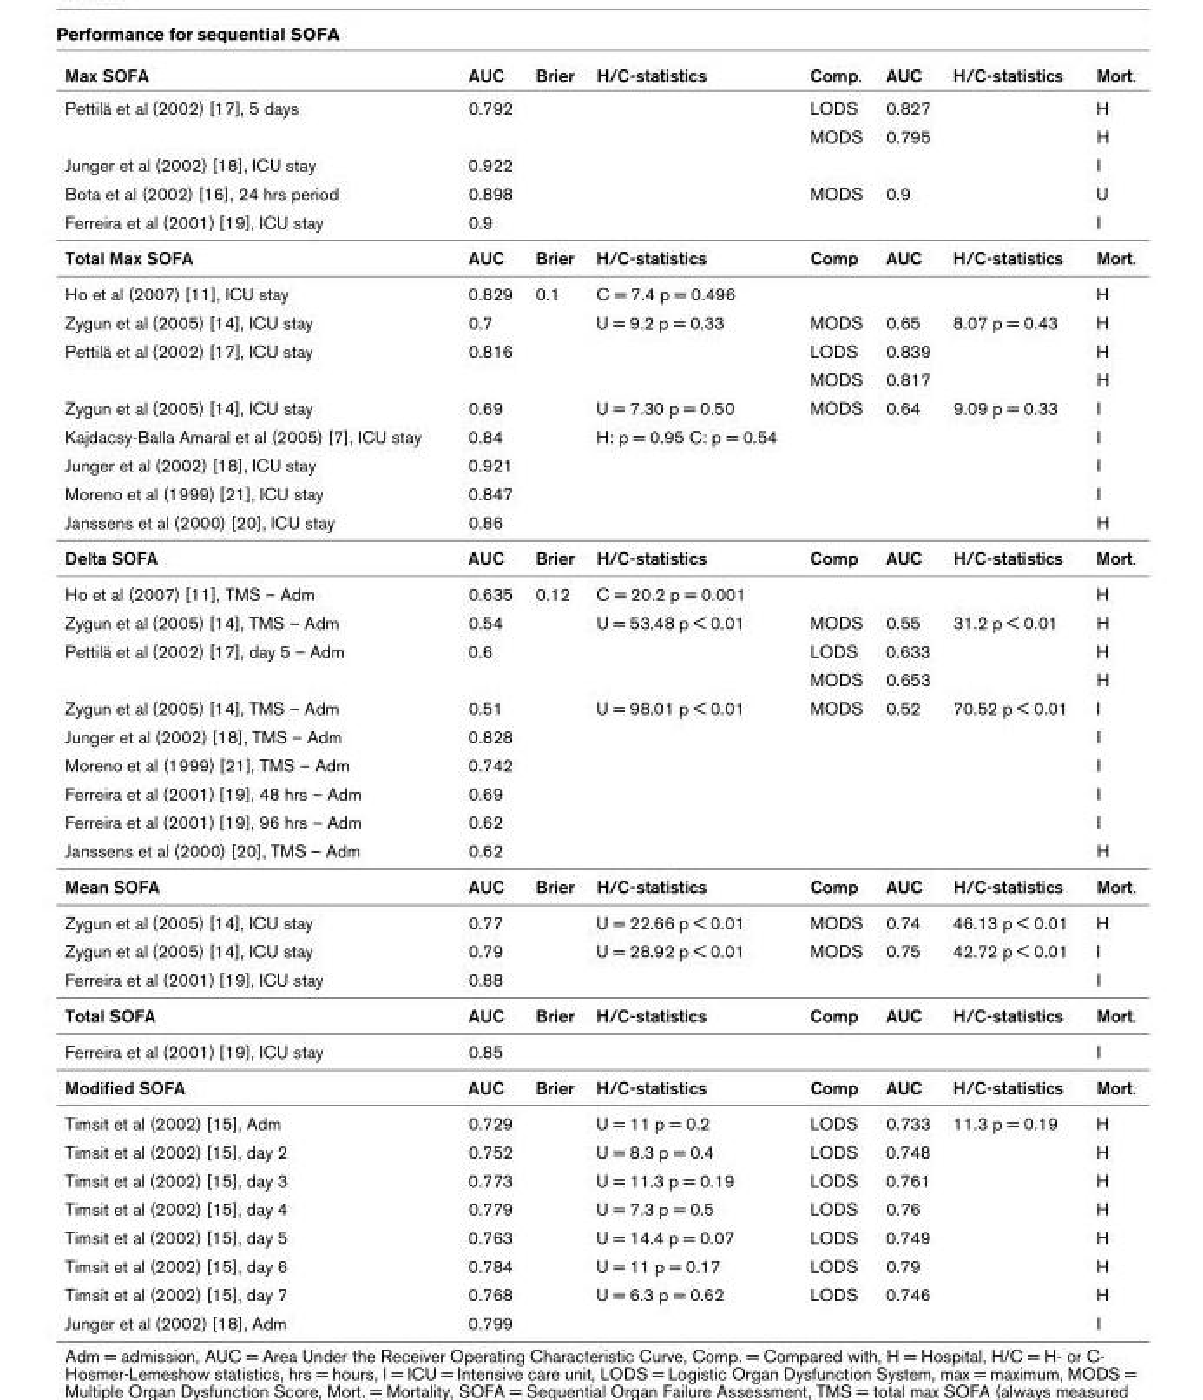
<table><thead><tr><td>Max SOFA</td><td>AUC</td><td>Brier</td><td>H/C-statistics</td><td>Comp.</td><td>AUC</td><td>H/C-statistics</td><td>Mort.</td></tr></thead><tbody><tr><td rowspan="2">Pettilä et al (2002) [17], 5 days</td><td>0.792</td><td></td><td></td><td>LODS</td><td>0.827</td><td></td><td>H</td></tr><tr><td></td><td></td><td></td><td>MODS</td><td>0.795</td><td></td><td>H</td></tr><tr><td>Junger et al (2002) [18], ICU stay</td><td>0.922</td><td></td><td></td><td></td><td></td><td></td><td>I</td></tr><tr><td>Bota et al (2002) [16], 24 hrs period</td><td>0.898</td><td></td><td></td><td>MODS</td><td>0.9</td><td></td><td>U</td></tr><tr><td>Ferreira et al (2001) [19], ICU stay</td><td>0.9</td><td></td><td></td><td></td><td></td><td></td><td>I</td></tr><tr><td>Total Max SOFA</td><td>AUC</td><td>Brier</td><td>H/C-statistics</td><td>Comp</td><td>AUC</td><td>H/C-statistics</td><td>Mort.</td></tr><tr><td>Ho et al (2007) [11], ICU stay</td><td>0.829</td><td>0.1</td><td>C = 7.4 p = 0.496</td><td></td><td></td><td></td><td>H</td></tr><tr><td>Zygun et al (2005) [14], ICU stay</td><td>0.7</td><td></td><td>U = 9.2 p = 0.33</td><td>MODS</td><td>0.65</td><td>8.07 p = 0.43</td><td>H</td></tr><tr><td rowspan="2">Pettilä et al (2002) [17], ICU stay</td><td>0.816</td><td></td><td></td><td>LODS</td><td>0.839</td><td></td><td>H</td></tr><tr><td></td><td></td><td></td><td>MODS</td><td>0.817</td><td></td><td>H</td></tr><tr><td>Zygun et al (2005) [14], ICU stay</td><td>0.69</td><td></td><td>U = 7.30 p = 0.50</td><td>MODS</td><td>0.64</td><td>9.09 p = 0.33</td><td>I</td></tr><tr><td>Kajdacsy-Balla Amaral et al (2005) [7], ICU stay</td><td>0.84</td><td></td><td>H: p = 0.95 C: p = 0.54</td><td></td><td></td><td></td><td>I</td></tr><tr><td>Junger et al (2002) [18], ICU stay</td><td>0.921</td><td></td><td></td><td></td><td></td><td></td><td>I</td></tr><tr><td>Moreno et al (1999) [21], ICU stay</td><td>0.847</td><td></td><td></td><td></td><td></td><td></td><td>I</td></tr><tr><td>Janssens et al (2000) [20], ICU stay</td><td>0.86</td><td></td><td></td><td></td><td></td><td></td><td>H</td></tr><tr><td>Delta SOFA</td><td>AUC</td><td>Brier</td><td>H/C-statistics</td><td>Comp</td><td>AUC</td><td>H/C-statistics</td><td>Mort.</td></tr><tr><td>Ho et al (2007) [11], TMS – Adm</td><td>0.635</td><td>0.12</td><td>C = 20.2 p = 0.001</td><td></td><td></td><td></td><td>H</td></tr><tr><td>Zygun et al (2005) [14], TMS – Adm</td><td>0.54</td><td></td><td>U = 53.48 p &lt; 0.01</td><td>MODS</td><td>0.55</td><td>31.2 p &lt; 0.01</td><td>H</td></tr><tr><td rowspan="2">Pettilä et al (2002) [17], day 5 – Adm</td><td>0.6</td><td></td><td></td><td>LODS</td><td>0.633</td><td></td><td>H</td></tr><tr><td></td><td></td><td></td><td>MODS</td><td>0.653</td><td></td><td>H</td></tr><tr><td>Zygun et al (2005) [14], TMS – Adm</td><td>0.51</td><td></td><td>U = 98.01 p &lt; 0.01</td><td>MODS</td><td>0.52</td><td>70.52 p &lt; 0.01</td><td>I</td></tr><tr><td>Junger et al (2002) [18], TMS – Adm</td><td>0.828</td><td></td><td></td><td></td><td></td><td></td><td>I</td></tr><tr><td>Moreno et al (1999) [21], TMS – Adm</td><td>0.742</td><td></td><td></td><td></td><td></td><td></td><td>I</td></tr><tr><td>Ferreira et al (2001) [19], 48 hrs – Adm</td><td>0.69</td><td></td><td></td><td></td><td></td><td></td><td>I</td></tr><tr><td>Ferreira et al (2001) [19], 96 hrs – Adm</td><td>0.62</td><td></td><td></td><td></td><td></td><td></td><td>I</td></tr><tr><td>Janssens et al (2000) [20], TMS – Adm</td><td>0.62</td><td></td><td></td><td></td><td></td><td></td><td>H</td></tr><tr><td>Mean SOFA</td><td>AUC</td><td>Brier</td><td>H/C-statistics</td><td>Comp</td><td>AUC</td><td>H/C-statistics</td><td>Mort.</td></tr><tr><td>Zygun et al (2005) [14], ICU stay</td><td>0.77</td><td></td><td>U = 22.66 p &lt; 0.01</td><td>MODS</td><td>0.74</td><td>46.13 p &lt; 0.01</td><td>H</td></tr><tr><td>Zygun et al (2005) [14], ICU stay</td><td>0.79</td><td></td><td>U = 28.92 p &lt; 0.01</td><td>MODS</td><td>0.75</td><td>42.72 p &lt; 0.01</td><td>I</td></tr><tr><td>Ferreira et al (2001) [19], ICU stay</td><td>0.88</td><td></td><td></td><td></td><td></td><td></td><td>I</td></tr><tr><td>Total SOFA</td><td>AUC</td><td>Brier</td><td>H/C-statistics</td><td>Comp</td><td>AUC</td><td>H/C-statistics</td><td>Mort.</td></tr><tr><td>Ferreira et al (2001) [19], ICU stay</td><td>0.85</td><td></td><td></td><td></td><td></td><td></td><td>I</td></tr><tr><td>Modified SOFA</td><td>AUC</td><td>Brier</td><td>H/C-statistics</td><td>Comp</td><td>AUC</td><td>H/C-statistics</td><td>Mort.</td></tr><tr><td>Timsit et al (2002) [15], Adm</td><td>0.729</td><td></td><td>U = 11 p = 0.2</td><td>LODS</td><td>0.733</td><td>11.3 p = 0.19</td><td>H</td></tr><tr><td>Timsit et al (2002) [15], day 2</td><td>0.752</td><td></td><td>U = 8.3 p = 0.4</td><td>LODS</td><td>0.748</td><td></td><td>H</td></tr><tr><td>Timsit et al (2002) [15], day 3</td><td>0.773</td><td></td><td>U = 11.3 p = 0.19</td><td>LODS</td><td>0.761</td><td></td><td>H</td></tr><tr><td>Timsit et al (2002) [15], day 4</td><td>0.779</td><td></td><td>U = 7.3 p = 0.5</td><td>LODS</td><td>0.76</td><td></td><td>H</td></tr><tr><td>Timsit et al (2002) [15], day 5</td><td>0.763</td><td></td><td>U = 14.4 p = 0.07</td><td>LODS</td><td>0.749</td><td></td><td>H</td></tr><tr><td>Timsit et al (2002) [15], day 6</td><td>0.784</td><td></td><td>U = 11 p = 0.17</td><td>LODS</td><td>0.79</td><td></td><td>H</td></tr><tr><td>Timsit et al (2002) [15], day 7</td><td>0.768</td><td></td><td>U = 6.3 p = 0.62</td><td>LODS</td><td>0.746</td><td></td><td>H</td></tr><tr><td>Junger et al (2002) [18], Adm</td><td>0.799</td><td></td><td></td><td></td><td></td><td></td><td>I</td></tr></tbody></table>